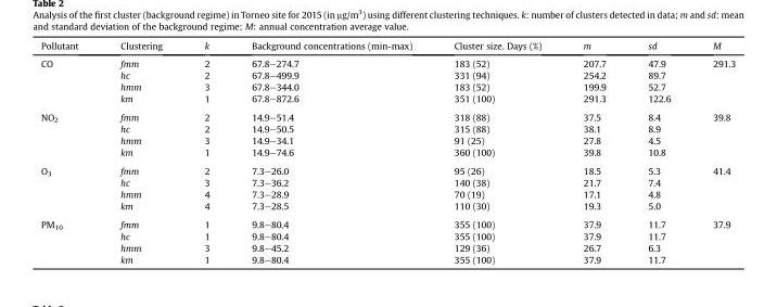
<table><thead><tr><td>Pollutant</td><td>Clustering</td><td>k</td><td>Background concentrations (min-max)</td><td>Cluster size. Days (%)</td><td>m</td><td>sd</td><td>M</td></tr></thead><tbody><tr><td rowspan="4">CO</td><td>fmm</td><td>2</td><td>67.8–274.7</td><td>183 (52)</td><td>207.7</td><td>47.9</td><td rowspan="4">291.3</td></tr><tr><td>hc</td><td>2</td><td>67.8–499.9</td><td>331 (94)</td><td>254.2</td><td>89.7</td></tr><tr><td>hmm</td><td>3</td><td>67.8–344.0</td><td>183 (52)</td><td>199.9</td><td>52.7</td></tr><tr><td>km</td><td>1</td><td>67.8–872.6</td><td>351 (100)</td><td>291.3</td><td>122.6</td></tr><tr><td rowspan="4">NO<sub>2</sub></td><td>fmm</td><td>2</td><td>14.9–51.4</td><td>318 (88)</td><td>37.5</td><td>8.4</td><td rowspan="4">39.8</td></tr><tr><td>hc</td><td>2</td><td>14.9–50.5</td><td>315 (88)</td><td>38.1</td><td>8.9</td></tr><tr><td>hmm</td><td>3</td><td>14.9–34.1</td><td>91 (25)</td><td>27.8</td><td>4.5</td></tr><tr><td>km</td><td>1</td><td>14.9–74.6</td><td>360 (100)</td><td>39.8</td><td>10.8</td></tr><tr><td rowspan="4">O<sub>3</sub></td><td>fmm</td><td>2</td><td>7.3–26.0</td><td>95 (26)</td><td>18.5</td><td>5.3</td><td rowspan="4">41.4</td></tr><tr><td>hc</td><td>3</td><td>7.3–36.2</td><td>140 (38)</td><td>21.7</td><td>7.4</td></tr><tr><td>hmm</td><td>4</td><td>7.3–28.9</td><td>70 (19)</td><td>17.1</td><td>4.8</td></tr><tr><td>km</td><td>4</td><td>7.3–28.5</td><td>110 (30)</td><td>19.3</td><td>5.0</td></tr><tr><td rowspan="4">PM<sub>10</sub></td><td>fmm</td><td>1</td><td>9.8–80.4</td><td>355 (100)</td><td>37.9</td><td>11.7</td><td rowspan="4">37.9</td></tr><tr><td>hc</td><td>1</td><td>9.8–80.4</td><td>355 (100)</td><td>37.9</td><td>11.7</td></tr><tr><td>hmm</td><td>3</td><td>9.8–45.2</td><td>129 (36)</td><td>26.7</td><td>6.3</td></tr><tr><td>km</td><td>1</td><td>9.8–80.4</td><td>355 (100)</td><td>37.9</td><td>11.7</td></tr></tbody></table>